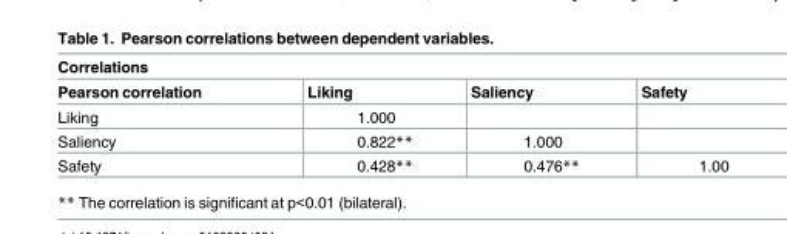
<table><thead><tr><td colspan="4">Correlations</td></tr><tr><td>Pearson correlation</td><td>Liking</td><td>Saliency</td><td>Safety</td></tr></thead><tbody><tr><td>Liking</td><td>1.000</td><td></td><td></td></tr><tr><td>Saliency</td><td>0.822**</td><td>1.000</td><td></td></tr><tr><td>Safety</td><td>0.428**</td><td>0.476**</td><td>1.00</td></tr></tbody></table>